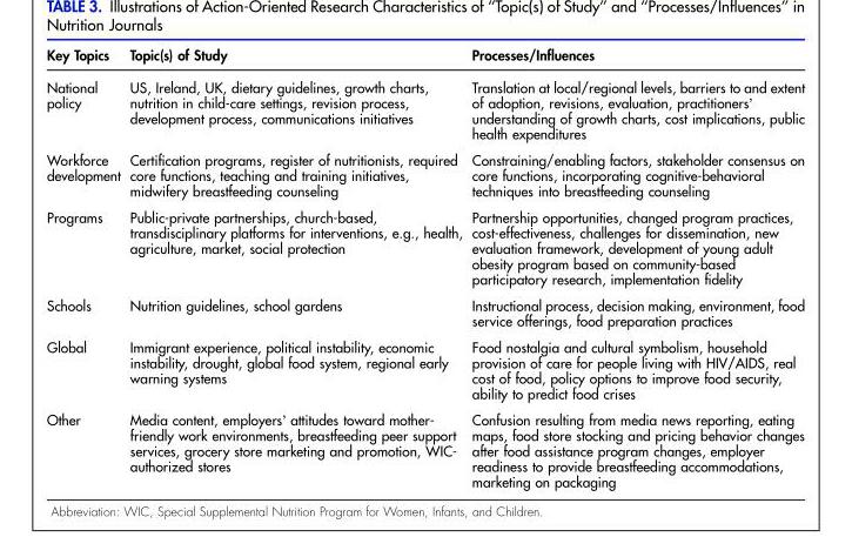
<table><thead><tr><td>Key Topics</td><td>Topic(s) of Study</td><td>Processes/Influences</td></tr></thead><tbody><tr><td>National policy</td><td>US, Ireland, UK, dietary guidelines, growth charts, nutrition in child-care settings, revision process, development process, communications initiatives</td><td>Translation at local/regional levels, barriers to and extent of adoption, revisions, evaluation, practitioners’ understanding of growth charts, cost implications, public health expenditures</td></tr><tr><td>Workforce development</td><td>Certification programs, register of nutritionists, required core functions, teaching and training initiatives, midwifery breastfeeding counseling</td><td>Constraining/enabling factors, stakeholder consensus on core functions, incorporating cognitive-behavioral techniques into breastfeeding counseling</td></tr><tr><td>Programs</td><td>Public-private partnerships, church-based, transdisciplinary platforms for interventions, e.g., health, agriculture, market, social protection</td><td>Partnership opportunities, changed program practices, cost-effectiveness, challenges for dissemination, new evaluation framework, development of young adult obesity program based on community-based participatory research, implementation fidelity</td></tr><tr><td>Schools</td><td>Nutrition guidelines, school gardens</td><td>Instructional process, decision making, environment, food service offerings, food preparation practices</td></tr><tr><td>Global</td><td>Immigrant experience, political instability, economic instability, drought, global food system, regional early warning systems</td><td>Food nostalgia and cultural symbolism, household provision of care for people living with HIV/AIDS, real cost of food, policy options to improve food security, ability to predict food crises</td></tr><tr><td>Other</td><td>Media content, employers’ attitudes toward mother- friendly work environments, breastfeeding peer support services, grocery store marketing and promotion, WIC- authorized stores</td><td>Confusion resulting from media news reporting, eating maps, food store stocking and pricing behavior changes after food assistance program changes, employer readiness to provide breastfeeding accommodations, marketing on packaging</td></tr></tbody></table>